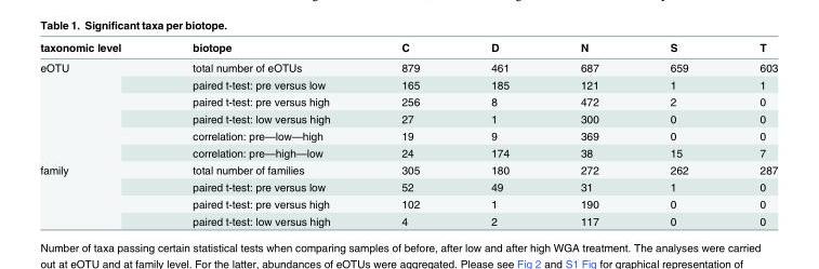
<table><thead><tr><td>taxonomic level</td><td>biotope</td><td>C</td><td>D</td><td>N</td><td>S</td><td>T</td></tr></thead><tbody><tr><td rowspan="6">eOTU</td><td>total number of eOTUs</td><td>879</td><td>461</td><td>687</td><td>659</td><td>603</td></tr><tr><td>paired t-test: pre versus low</td><td>165</td><td>185</td><td>121</td><td>1</td><td>1</td></tr><tr><td>paired t-test: pre versus high</td><td>256</td><td>8</td><td>472</td><td>2</td><td>0</td></tr><tr><td>paired t-test: low versus high</td><td>27</td><td>1</td><td>300</td><td>0</td><td>0</td></tr><tr><td>correlation: pre—low—high</td><td>19</td><td>9</td><td>369</td><td>0</td><td>0</td></tr><tr><td>correlation: pre—high—low</td><td>24</td><td>174</td><td>38</td><td>15</td><td>7</td></tr><tr><td rowspan="4">family</td><td>total number of families</td><td>305</td><td>180</td><td>272</td><td>262</td><td>287</td></tr><tr><td>paired t-test: pre versus low</td><td>52</td><td>49</td><td>31</td><td>1</td><td>0</td></tr><tr><td>paired t-test: pre versus high</td><td>102</td><td>1</td><td>190</td><td>0</td><td>0</td></tr><tr><td>paired t-test: low versus high</td><td>4</td><td>2</td><td>117</td><td>0</td><td>0</td></tr></tbody></table>